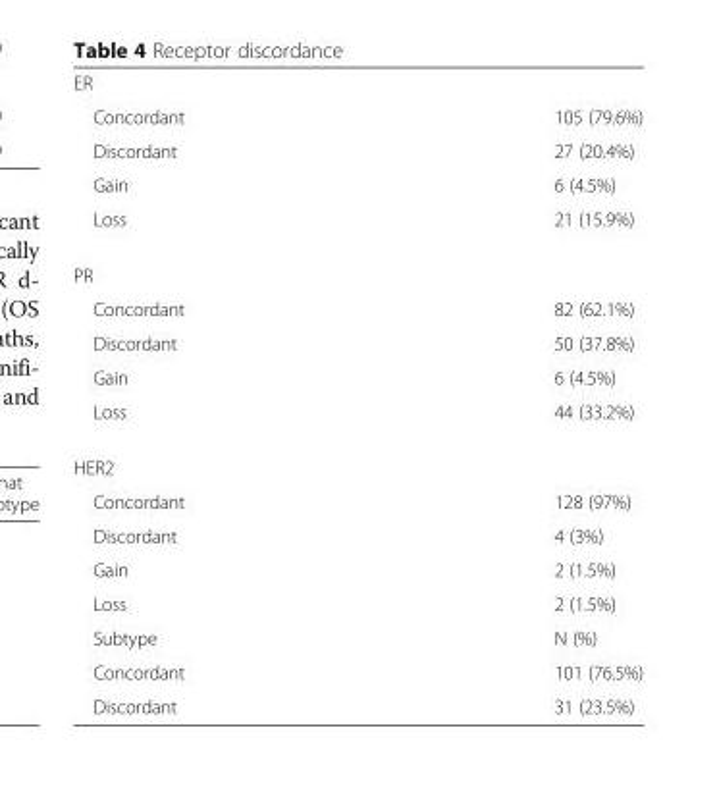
<table><tbody><tr><td colspan="2">ER</td></tr><tr><td>Concordant</td><td>105 (79.6%)</td></tr><tr><td>Discordant</td><td>27 (20.4%)</td></tr><tr><td>Gain</td><td>6 (4.5%)</td></tr><tr><td>Loss</td><td>21 (15.9%)</td></tr><tr><td colspan="2">PR</td></tr><tr><td>Concordant</td><td>82 (62.1%)</td></tr><tr><td>Discordant</td><td>50 (37.8%)</td></tr><tr><td>Gain</td><td>6 (4.5%)</td></tr><tr><td>Loss</td><td>44 (33.2%)</td></tr><tr><td colspan="2">HER2</td></tr><tr><td>Concordant</td><td>128 (97%)</td></tr><tr><td>Discordant</td><td>4 (3%)</td></tr><tr><td>Gain</td><td>2 (1.5%)</td></tr><tr><td>Loss</td><td>2 (1.5%)</td></tr><tr><td>Subtype</td><td>N (%)</td></tr><tr><td>Concordant</td><td>101 (76.5%)</td></tr><tr><td>Discordant</td><td>31 (23.5%)</td></tr></tbody></table>